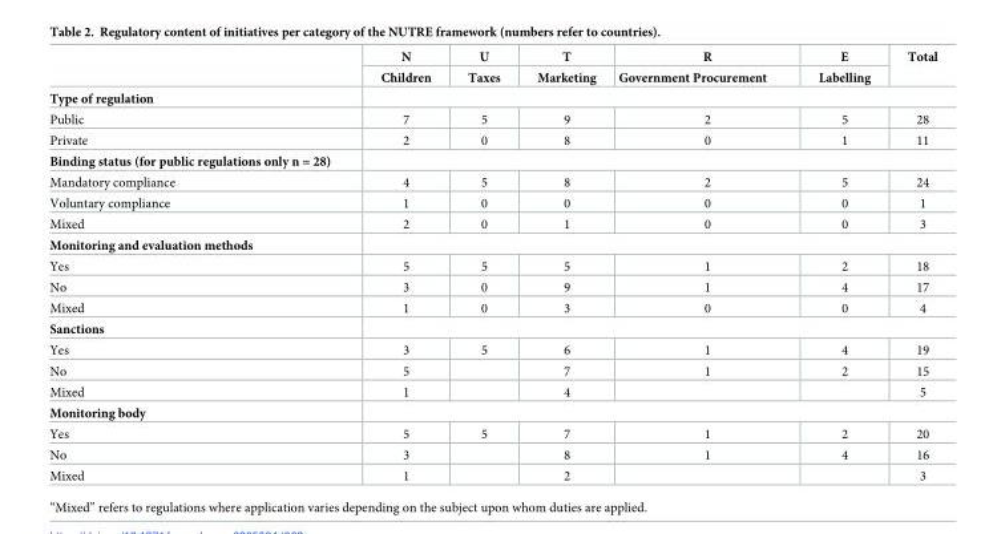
<table><thead><tr><td rowspan="2"></td><td rowspan="2">N Children</td><td rowspan="2">U Taxes</td><td rowspan="2">T Marketing</td><td rowspan="2">R Government Procurement</td><td rowspan="2">E Labelling</td><td rowspan="2">Total</td></tr><tr></tr></thead><tbody><tr><td colspan="7">Type of regulation</td></tr><tr><td>Public</td><td>7</td><td>5</td><td>9</td><td>2</td><td>5</td><td>28</td></tr><tr><td>Private</td><td>2</td><td>0</td><td>8</td><td>0</td><td>1</td><td>11</td></tr><tr><td colspan="7">Binding status (for public regulations only n = 28)</td></tr><tr><td>Mandatory compliance</td><td>4</td><td>5</td><td>8</td><td>2</td><td>5</td><td>24</td></tr><tr><td>Voluntary compliance</td><td>1</td><td>0</td><td>0</td><td>0</td><td>0</td><td>1</td></tr><tr><td>Mixed</td><td>2</td><td>0</td><td>1</td><td>0</td><td>0</td><td>3</td></tr><tr><td colspan="7">Monitoring and evaluation methods</td></tr><tr><td>Yes</td><td>5</td><td>5</td><td>5</td><td>1</td><td>2</td><td>18</td></tr><tr><td>No</td><td>3</td><td>0</td><td>9</td><td>1</td><td>4</td><td>17</td></tr><tr><td>Mixed</td><td>1</td><td>0</td><td>3</td><td>0</td><td>0</td><td>4</td></tr><tr><td colspan="7">Sanctions</td></tr><tr><td>Yes</td><td>3</td><td>5</td><td>6</td><td>1</td><td>4</td><td>19</td></tr><tr><td>No</td><td>5</td><td></td><td>7</td><td>1</td><td>2</td><td>15</td></tr><tr><td>Mixed</td><td>1</td><td></td><td>4</td><td></td><td></td><td>5</td></tr><tr><td colspan="7">Monitoring body</td></tr><tr><td>Yes</td><td>5</td><td>5</td><td>7</td><td>1</td><td>2</td><td>20</td></tr><tr><td>No</td><td>3</td><td></td><td>8</td><td>1</td><td>4</td><td>16</td></tr><tr><td>Mixed</td><td>1</td><td></td><td>2</td><td></td><td></td><td>3</td></tr></tbody></table>